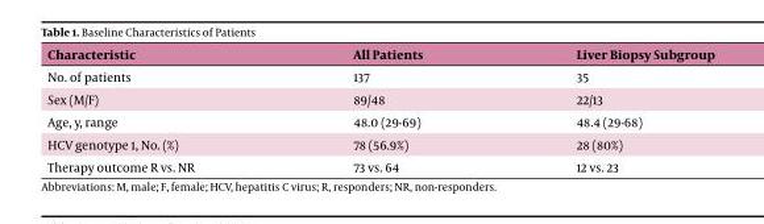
<table><thead><tr><td>Characteristic</td><td>All Patients</td><td>Liver Biopsy Subgroup</td></tr></thead><tbody><tr><td>No. of patients</td><td>137</td><td>35</td></tr><tr><td>Sex (M/F)</td><td>89/48</td><td>22/13</td></tr><tr><td>Age, y, range</td><td>48.0 (29-69)</td><td>48.4 (29-68)</td></tr><tr><td>HCV genotype 1, No. (%)</td><td>78 (56.9%)</td><td>28 (80%)</td></tr><tr><td>Therapy outcome R vs. NR</td><td>73 vs. 64</td><td>12 vs. 23</td></tr></tbody></table>